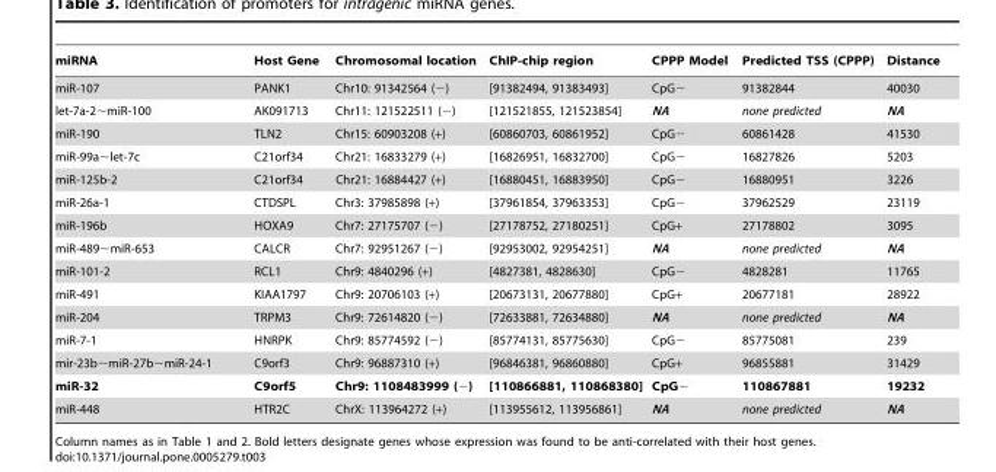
<table><thead><tr><td>miRNA</td><td>Host Gene</td><td>Chromosomal location</td><td>ChIP-chip region</td><td>CPPP Model</td><td>Predicted TSS (CPPP)</td><td>Distance</td></tr></thead><tbody><tr><td>miR-107</td><td>PANK1</td><td>Chr10: 91342564 (−)</td><td>[91382494, 91383493]</td><td>CpG−</td><td>91382844</td><td>40030</td></tr><tr><td>let-7a-2∼miR-100</td><td>AK091713</td><td>Chr11: 121522511 (−)</td><td>[121521855, 121523854]</td><td>NA</td><td>none predicted</td><td>NA</td></tr><tr><td>miR-190</td><td>TLN2</td><td>Chr15: 60903208 (+)</td><td>[60860703, 60861952]</td><td>CpG−</td><td>60861428</td><td>41530</td></tr><tr><td>miR-99a∼let-7c</td><td>C21orf34</td><td>Chr21: 16833279 (+)</td><td>[16826951, 16832700]</td><td>CpG−</td><td>16827826</td><td>5203</td></tr><tr><td>miR-125b-2</td><td>C21orf34</td><td>Chr21: 16884427 (+)</td><td>[16880451, 16883950]</td><td>CpG−</td><td>16880951</td><td>3226</td></tr><tr><td>miR-26a-1</td><td>CTDSPL</td><td>Chr3: 37985898 (+)</td><td>[37961854, 37963353]</td><td>CpG−</td><td>37962529</td><td>23119</td></tr><tr><td>miR-196b</td><td>HOXA9</td><td>Chr7: 27175707 (−)</td><td>[27178752, 27180251]</td><td>CpG+</td><td>27178802</td><td>3095</td></tr><tr><td>miR-489∼miR-653</td><td>CALCR</td><td>Chr7: 92951267 (−)</td><td>[92953002, 92954251]</td><td>NA</td><td>none predicted</td><td>NA</td></tr><tr><td>miR-101-2</td><td>RCL1</td><td>Chr9: 4840296 (+)</td><td>[4827381, 4828630]</td><td>CpG−</td><td>4828281</td><td>11765</td></tr><tr><td>miR-491</td><td>KIAA1797</td><td>Chr9: 20706103 (+)</td><td>[20673131, 20677880]</td><td>CpG+</td><td>20677181</td><td>28922</td></tr><tr><td>miR-204</td><td>TRPM3</td><td>Chr9: 72614820 (−)</td><td>[72633881, 72634880]</td><td>NA</td><td>none predicted</td><td>NA</td></tr><tr><td>miR-7-1</td><td>HNRPK</td><td>Chr9: 85774592 (−)</td><td>[85774131, 85775630]</td><td>CpG−</td><td>85775081</td><td>239</td></tr><tr><td>mir-23b∼miR-27b∼miR-24-1</td><td>C9orf3</td><td>Chr9: 96887310 (+)</td><td>[96846381, 96860880]</td><td>CpG+</td><td>96855881</td><td>31429</td></tr><tr><td>miR-32</td><td>C9orf5</td><td>Chr9: 1108483999 (−)</td><td>[110866881, 110868380]</td><td>CpG−</td><td>110867881</td><td>19232</td></tr><tr><td>miR-448</td><td>HTR2C</td><td>ChrX: 113964272 (+)</td><td>[113955612, 113956861]</td><td>NA</td><td>none predicted</td><td>NA</td></tr></tbody></table>